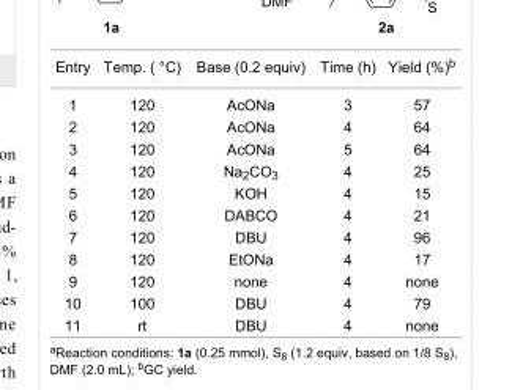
<table><tbody><tr><td>Entry</td><td>Temp. ( °C)</td><td>Base (0.2 equiv)</td><td>Time (h)</td><td>Yield (%)<sup>b</sup></td></tr><tr><td>1</td><td>120</td><td>AcONa</td><td>3</td><td>57</td></tr><tr><td>2</td><td>120</td><td>AcONa</td><td>4</td><td>64</td></tr><tr><td>3</td><td>120</td><td>AcONa</td><td>5</td><td>64</td></tr><tr><td>4</td><td>120</td><td>Na<sub>2</sub>CO<sub>3</sub></td><td>4</td><td>25</td></tr><tr><td>5</td><td>120</td><td>KOH</td><td>4</td><td>15</td></tr><tr><td>6</td><td>120</td><td>DABCO</td><td>4</td><td>21</td></tr><tr><td>7</td><td>120</td><td>DBU</td><td>4</td><td>96</td></tr><tr><td>8</td><td>120</td><td>EtONa</td><td>4</td><td>17</td></tr><tr><td>9</td><td>120</td><td>none</td><td>4</td><td>none</td></tr><tr><td>10</td><td>100</td><td>DBU</td><td>4</td><td>79</td></tr><tr><td>11</td><td>rt</td><td>DBU</td><td>4</td><td>none</td></tr></tbody></table>